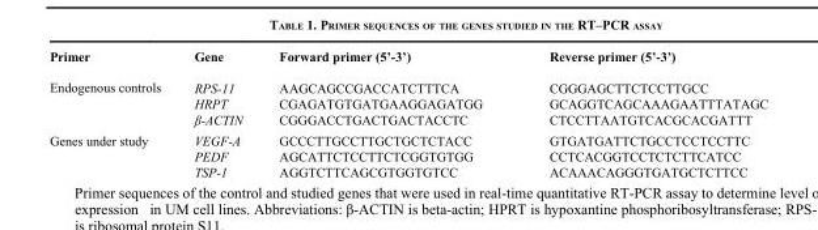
<table><thead><tr><td>Primer</td><td>Gene</td><td>Forward primer (5’-3’)</td><td>Reverse primer (5’-3’)</td></tr></thead><tbody><tr><td rowspan="3">Endogenous controls</td><td>RPS-11</td><td>AAGCAGCCGACCATCTTTCA</td><td>CGGGAGCTTCTCCTTGCC</td></tr><tr><td>HRPT</td><td>CGAGATGTGATGAAGGAGATGG</td><td>GCAGGTCAGCAAAGAATTTATAGC</td></tr><tr><td>β-ACTIN</td><td>CGGGACCTGACTGACTACCTC</td><td>CTCCTTAATGTCACGCACGATTT</td></tr><tr><td rowspan="3">Genes under study</td><td>VEGF-A</td><td>GCCCTTGCCTTGCTGCTCTACC</td><td>GTGATGATTCTGCCTCCTCCTTC</td></tr><tr><td>PEDF</td><td>AGCATTCTCCTTCTCGGTGTGG</td><td>CCTCACGGTCCTCTCTTCATCC</td></tr><tr><td>TSP-1</td><td>AGGTCTTCAGCGTGGTGTCC</td><td>ACAAACAGGGTGATGCTCTTCC</td></tr></tbody></table>